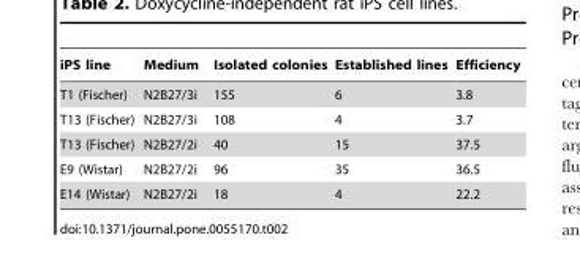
<table><thead><tr><td>iPS line</td><td>Medium</td><td>Isolated colonies</td><td>Established lines</td><td>Efficiency</td></tr></thead><tbody><tr><td>T1 (Fischer)</td><td>N2B27/3i</td><td>155</td><td>6</td><td>3.8</td></tr><tr><td>T13 (Fischer)</td><td>N2B27/3i</td><td>108</td><td>4</td><td>3.7</td></tr><tr><td>T13 (Fischer)</td><td>N2B27/2i</td><td>40</td><td>15</td><td>37.5</td></tr><tr><td>E9 (Wistar)</td><td>N2B27/2i</td><td>96</td><td>35</td><td>36.5</td></tr><tr><td>E14 (Wistar)</td><td>N2B27/2i</td><td>18</td><td>4</td><td>22.2</td></tr></tbody></table>